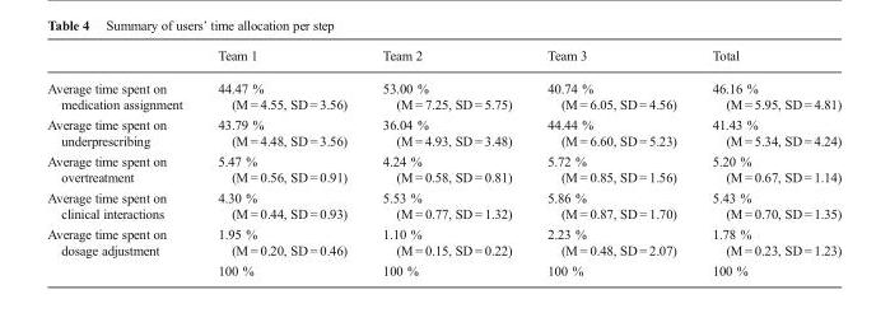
<table><thead><tr><td></td><td>Team 1</td><td>Team 2</td><td>Team 3</td><td>Total</td></tr></thead><tbody><tr><td>Average time spent on medication assignment</td><td>44.47 % (M = 4.55, SD = 3.56)</td><td>53.00 % (M = 7.25, SD = 5.75)</td><td>40.74 % (M = 6.05, SD = 4.56)</td><td>46.16 % (M = 5.95, SD = 4.81)</td></tr><tr><td>Average time spent on underprescribing</td><td>43.79 % (M = 4.48, SD = 3.56)</td><td>36.04 % (M = 4.93, SD = 3.48)</td><td>44.44 % (M = 6.60, SD = 5.23)</td><td>41.43 % (M = 5.34, SD = 4.24)</td></tr><tr><td>Average time spent on overtreatment</td><td>5.47 % (M = 0.56, SD = 0.91)</td><td>4.24 % (M = 0.58, SD = 0.81)</td><td>5.72 % (M = 0.85, SD = 1.56)</td><td>5.20 % (M = 0.67, SD = 1.14)</td></tr><tr><td>Average time spent on clinical interactions</td><td>4.30 % (M = 0.44, SD = 0.93)</td><td>5.53 % (M = 0.77, SD = 1.32)</td><td>5.86 % (M = 0.87, SD = 1.70)</td><td>5.43 % (M = 0.70, SD = 1.35)</td></tr><tr><td rowspan="2">Average time spent on dosage adjustment</td><td>1.95 % (M = 0.20, SD = 0.46)</td><td>1.10 % (M = 0.15, SD = 0.22)</td><td>2.23 % (M = 0.48, SD = 2.07)</td><td>1.78 % (M = 0.23, SD = 1.23)</td></tr><tr><td>100 %</td><td>100 %</td><td>100 %</td><td>100 %</td></tr></tbody></table>